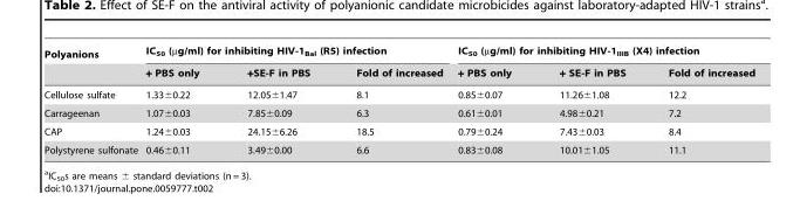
<table><thead><tr><td rowspan="2">Polyanions</td><td colspan="3">IC<sub>50</sub> (µg/ml) for inhibiting HIV-1<sub>Bal</sub> (R5) infection</td><td colspan="3">IC<sub>50</sub> (µg/ml) for inhibiting HIV-1<sub>IIIB</sub> (X4) infection</td></tr><tr><td>+ PBS only</td><td>+SE-F in PBS</td><td>Fold of increased</td><td>+ PBS only</td><td>+ SE-F in PBS</td><td>Fold of increased</td></tr></thead><tbody><tr><td>Cellulose sulfate</td><td>1.33±0.22</td><td>12.05±1.47</td><td>8.1</td><td>0.85±0.07</td><td>11.26±1.08</td><td>12.2</td></tr><tr><td>Carrageenan</td><td>1.07±0.03</td><td>7.85±0.09</td><td>6.3</td><td>0.61±0.01</td><td>4.98±0.21</td><td>7.2</td></tr><tr><td>CAP</td><td>1.24±0.03</td><td>24.15±6.26</td><td>18.5</td><td>0.79±0.24</td><td>7.43±0.03</td><td>8.4</td></tr><tr><td>Polystyrene sulfonate</td><td>0.46±0.11</td><td>3.49±0.00</td><td>6.6</td><td>0.83±0.08</td><td>10.01±1.05</td><td>11.1</td></tr></tbody></table>